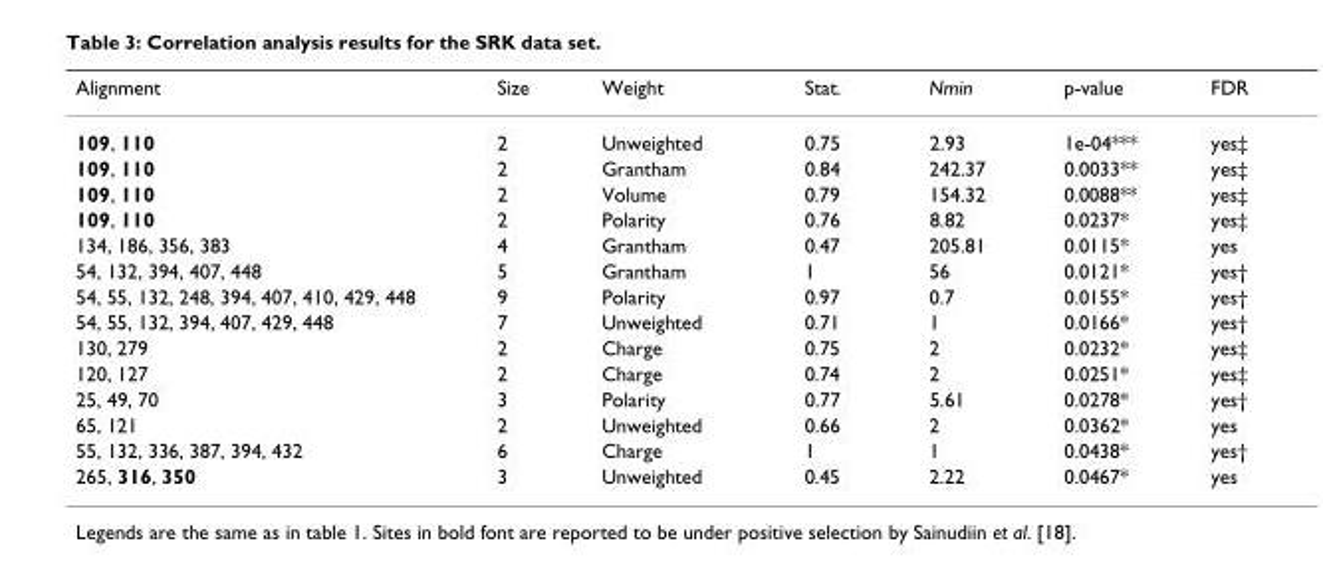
<table><thead><tr><td>Alignment</td><td>Size</td><td>Weight</td><td>Stat.</td><td>Nmin</td><td>p-value</td><td>FDR</td></tr></thead><tbody><tr><td>109, 110</td><td>2</td><td>Unweighted</td><td>0.75</td><td>2.93</td><td>1e-04***</td><td>yes‡</td></tr><tr><td>109, 110</td><td>2</td><td>Grantham</td><td>0.84</td><td>242.37</td><td>0.0033**</td><td>yes‡</td></tr><tr><td>109, 110</td><td>2</td><td>Volume</td><td>0.79</td><td>154.32</td><td>0.0088**</td><td>yes‡</td></tr><tr><td>109, 110</td><td>2</td><td>Polarity</td><td>0.76</td><td>8.82</td><td>0.0237*</td><td>yes‡</td></tr><tr><td>134, 186, 356, 383</td><td>4</td><td>Grantham</td><td>0.47</td><td>205.81</td><td>0.0115*</td><td>yes</td></tr><tr><td>54, 132, 394, 407, 448</td><td>5</td><td>Grantham</td><td>1</td><td>56</td><td>0.0121*</td><td>yes†</td></tr><tr><td>54, 55, 132, 248, 394, 407, 410, 429, 448</td><td>9</td><td>Polarity</td><td>0.97</td><td>0.7</td><td>0.0155*</td><td>yes†</td></tr><tr><td>54, 55, 132, 394, 407, 429, 448</td><td>7</td><td>Unweighted</td><td>0.71</td><td>1</td><td>0.0166*</td><td>yes†</td></tr><tr><td>130, 279</td><td>2</td><td>Charge</td><td>0.75</td><td>2</td><td>0.0232*</td><td>yes‡</td></tr><tr><td>120, 127</td><td>2</td><td>Charge</td><td>0.74</td><td>2</td><td>0.0251*</td><td>yes‡</td></tr><tr><td>25, 49, 70</td><td>3</td><td>Polarity</td><td>0.77</td><td>5.61</td><td>0.0278*</td><td>yes†</td></tr><tr><td>65, 121</td><td>2</td><td>Unweighted</td><td>0.66</td><td>2</td><td>0.0362*</td><td>yes</td></tr><tr><td>55, 132, 336, 387, 394, 432</td><td>6</td><td>Charge</td><td>1</td><td>1</td><td>0.0438*</td><td>yes†</td></tr><tr><td>265, 316, 350</td><td>3</td><td>Unweighted</td><td>0.45</td><td>2.22</td><td>0.0467*</td><td>yes</td></tr></tbody></table>